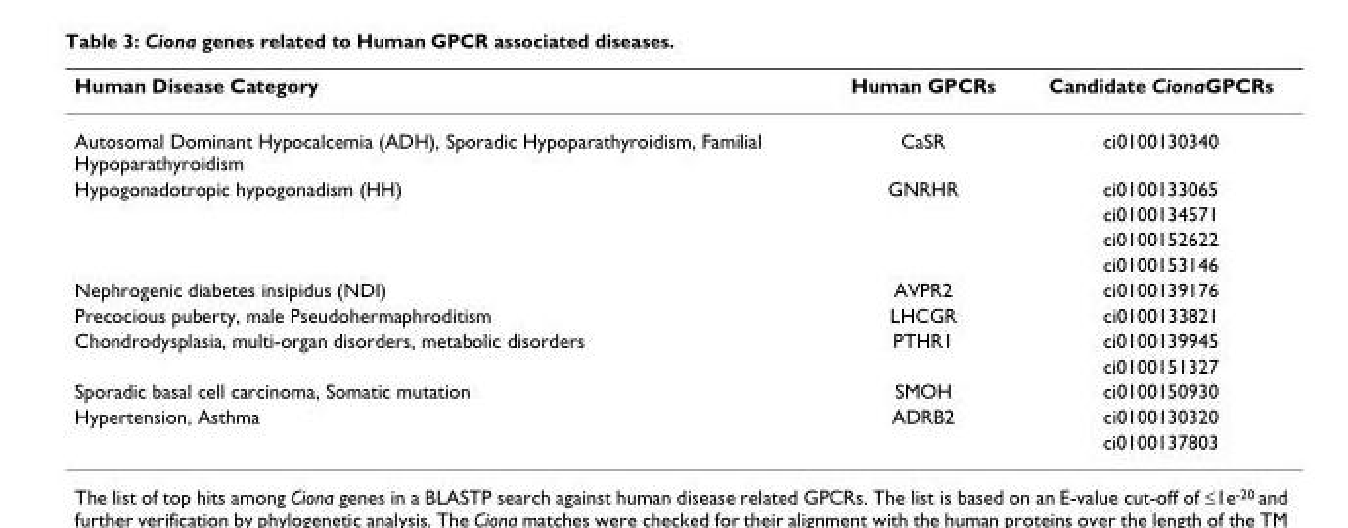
<table><thead><tr><td>Human Disease Category</td><td>Human GPCRs</td><td>Candidate CionaGPCRs</td></tr></thead><tbody><tr><td>Autosomal Dominant Hypocalcemia (ADH), Sporadic Hypoparathyroidism, Familial Hypoparathyroidism</td><td>CaSR</td><td>ci0100130340</td></tr><tr><td rowspan="4">Hypogonadotropic hypogonadism (HH)</td><td>GNRHR</td><td>ci0100133065</td></tr><tr><td></td><td>ci0100134571</td></tr><tr><td></td><td>ci0100152622</td></tr><tr><td></td><td>ci0100153146</td></tr><tr><td>Nephrogenic diabetes insipidus (NDI)</td><td>AVPR2</td><td>ci0100139176</td></tr><tr><td>Precocious puberty, male Pseudohermaphroditism</td><td>LHCGR</td><td>ci0100133821</td></tr><tr><td rowspan="2">Chondrodysplasia, multi-organ disorders, metabolic disorders</td><td>PTHR1</td><td>ci0100139945</td></tr><tr><td></td><td>ci0100151327</td></tr><tr><td>Sporadic basal cell carcinoma, Somatic mutation</td><td>SMOH</td><td>ci0100150930</td></tr><tr><td rowspan="2">Hypertension, Asthma</td><td>ADRB2</td><td>ci0100130320</td></tr><tr><td></td><td>ci0100137803</td></tr></tbody></table>